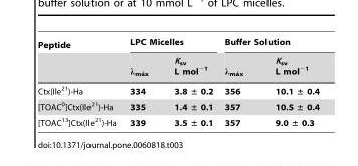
<table><thead><tr><td rowspan="2">Peptide</td><td colspan="2">LPC Micelles</td><td colspan="2">Buffer Solution</td></tr><tr><td>lma´x</td><td>K<sub>sv</sub> L mol<sup>−1</sup></td><td>lma´x</td><td>K<sub>sv</sub> L mol<sup>−1</sup></td></tr></thead><tbody><tr><td>Ctx(Ile<sup>21</sup>)-Ha</td><td>334</td><td>3.8 ± 0.2</td><td>356</td><td>10.1 ± 0.4</td></tr><tr><td>[TOAC<sup>0</sup>]Ctx(Ile<sup>21</sup>)-Ha</td><td>335</td><td>1.4 ± 0.1</td><td>357</td><td>10.5 ± 0.4</td></tr><tr><td>[TOAC<sup>13</sup>]Ctx(Ile<sup>21</sup>)-Ha</td><td>339</td><td>3.5 ± 0.1</td><td>357</td><td>9.0 ± 0.3</td></tr></tbody></table>